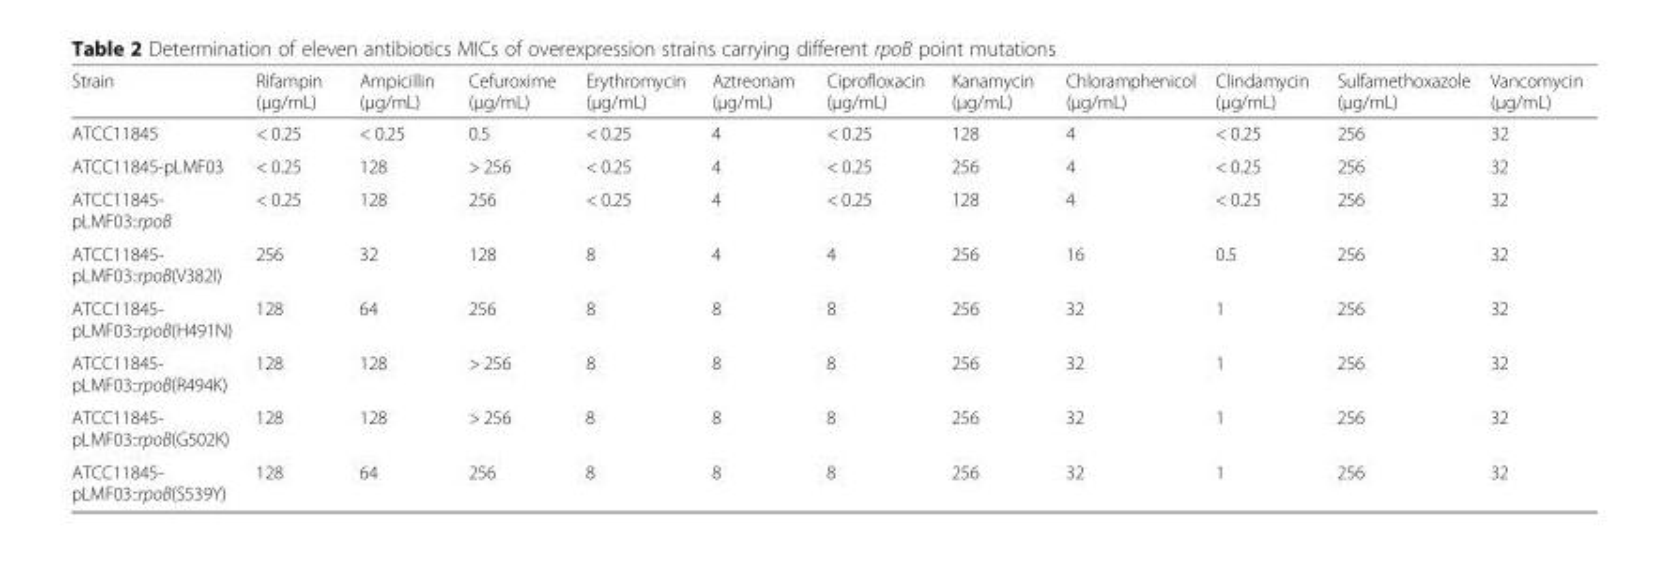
<table><thead><tr><td>Strain</td><td>Rifampin (μg/mL)</td><td>Ampicillin (μg/mL)</td><td>Cefuroxime (μg/mL)</td><td>Erythromycin (μg/mL)</td><td>Aztreonam (μg/mL)</td><td>Ciprofloxacin (μg/mL)</td><td>Kanamycin (μg/mL)</td><td>Chloramphenicol (μg/mL)</td><td>Clindamycin (μg/mL)</td><td>Sulfamethoxazole (μg/mL)</td><td>Vancomycin (μg/mL)</td></tr></thead><tbody><tr><td>ATCC11845</td><td>&lt; 0.25</td><td>&lt; 0.25</td><td>0.5</td><td>&lt; 0.25</td><td>4</td><td>&lt; 0.25</td><td>128</td><td>4</td><td>&lt; 0.25</td><td>256</td><td>32</td></tr><tr><td>ATCC11845-pLMF03</td><td>&lt; 0.25</td><td>128</td><td>&gt; 256</td><td>&lt; 0.25</td><td>4</td><td>&lt; 0.25</td><td>256</td><td>4</td><td>&lt; 0.25</td><td>256</td><td>32</td></tr><tr><td>ATCC11845- pLMF03::rpoB</td><td>&lt; 0.25</td><td>128</td><td>256</td><td>&lt; 0.25</td><td>4</td><td>&lt; 0.25</td><td>128</td><td>4</td><td>&lt; 0.25</td><td>256</td><td>32</td></tr><tr><td>ATCC11845- pLMF03::rpoB(V382I)</td><td>256</td><td>32</td><td>128</td><td>8</td><td>4</td><td>4</td><td>256</td><td>16</td><td>0.5</td><td>256</td><td>32</td></tr><tr><td>ATCC11845- pLMF03::rpoB(H491N)</td><td>128</td><td>64</td><td>256</td><td>8</td><td>8</td><td>8</td><td>256</td><td>32</td><td>1</td><td>256</td><td>32</td></tr><tr><td>ATCC11845- pLMF03::rpoB(R494K)</td><td>128</td><td>128</td><td>&gt; 256</td><td>8</td><td>8</td><td>8</td><td>256</td><td>32</td><td>1</td><td>256</td><td>32</td></tr><tr><td>ATCC11845- pLMF03::rpoB(G502K)</td><td>128</td><td>128</td><td>&gt; 256</td><td>8</td><td>8</td><td>8</td><td>256</td><td>32</td><td>1</td><td>256</td><td>32</td></tr><tr><td>ATCC11845- pLMF03::rpoB(S539Y)</td><td>128</td><td>64</td><td>256</td><td>8</td><td>8</td><td>8</td><td>256</td><td>32</td><td>1</td><td>256</td><td>32</td></tr></tbody></table>